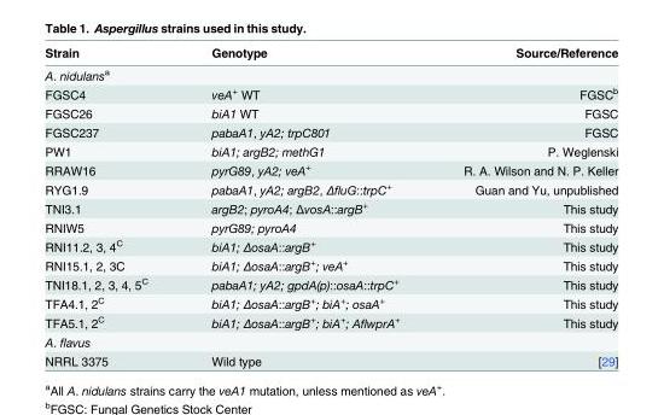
<table><thead><tr><td>Strain</td><td>Genotype</td><td>Source/Reference</td></tr></thead><tbody><tr><td colspan="3">A. nidulans<sup>a</sup></td></tr><tr><td>FGSC4</td><td>veA<sup>+</sup> WT</td><td>FGSC<sup>b</sup></td></tr><tr><td>FGSC26</td><td>biA1 WT</td><td>FGSC</td></tr><tr><td>FGSC237</td><td>pabaA1, yA2; trpC801</td><td>FGSC</td></tr><tr><td>PW1</td><td>biA1; argB2; methG1</td><td>P. Weglenski</td></tr><tr><td>RRAW16</td><td>pyrG89, yA2; veA<sup>+</sup></td><td>R. A. Wilson and N. P. Keller</td></tr><tr><td>RYG1.9</td><td>pabaA1, yA2; argB2, ΔfluG::trpC<sup>+</sup></td><td>Guan and Yu, unpublished</td></tr><tr><td>TNI3.1</td><td>argB2; pyroA4; ΔvosA::argB<sup>+</sup></td><td>This study</td></tr><tr><td>RNIW5</td><td>pyrG89; pyroA4</td><td>This study</td></tr><tr><td>RNI11.2, 3, 4<sup>C</sup></td><td>biA1; ΔosaA::argB<sup>+</sup></td><td>This study</td></tr><tr><td>RNI15.1, 2, 3C</td><td>biA1; ΔosaA::argB<sup>+</sup>; veA<sup>+</sup></td><td>This study</td></tr><tr><td>TNI18.1, 2, 3, 4, 5<sup>C</sup></td><td>pabaA1; yA2; gpdA(p)::osaA::trpC<sup>+</sup></td><td>This study</td></tr><tr><td>TFA4.1, 2<sup>C</sup></td><td>biA1; ΔosaA::argB<sup>+</sup>; biA<sup>+</sup>; osaA<sup>+</sup></td><td>This study</td></tr><tr><td>TFA5.1, 2<sup>C</sup></td><td>biA1; ΔosaA::argB<sup>+</sup>; biA<sup>+</sup>; AflwprA<sup>+</sup></td><td>This study</td></tr><tr><td colspan="3">A. flavus</td></tr><tr><td>NRRL 3375</td><td>Wild type</td><td>[29]</td></tr></tbody></table>